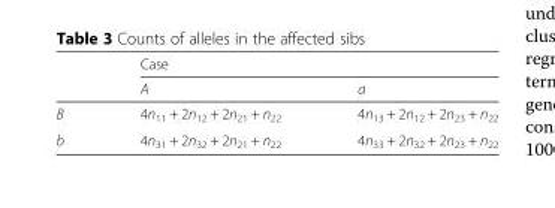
<table><thead><tr><td rowspan="2"></td><td colspan="2">Case</td></tr><tr><td>A</td><td>a</td></tr></thead><tbody><tr><td>B</td><td>4n<sub>11</sub> + 2n<sub>12</sub> + 2n<sub>21</sub> + n<sub>22</sub></td><td>4n<sub>13</sub> + 2n<sub>12</sub> + 2n<sub>23</sub> + n<sub>22</sub></td></tr><tr><td>b</td><td>4n<sub>31</sub> + 2n<sub>32</sub> + 2n<sub>21</sub> + n<sub>22</sub></td><td>4n<sub>33</sub> + 2n<sub>32</sub> + 2n<sub>23</sub> + n<sub>22</sub></td></tr></tbody></table>